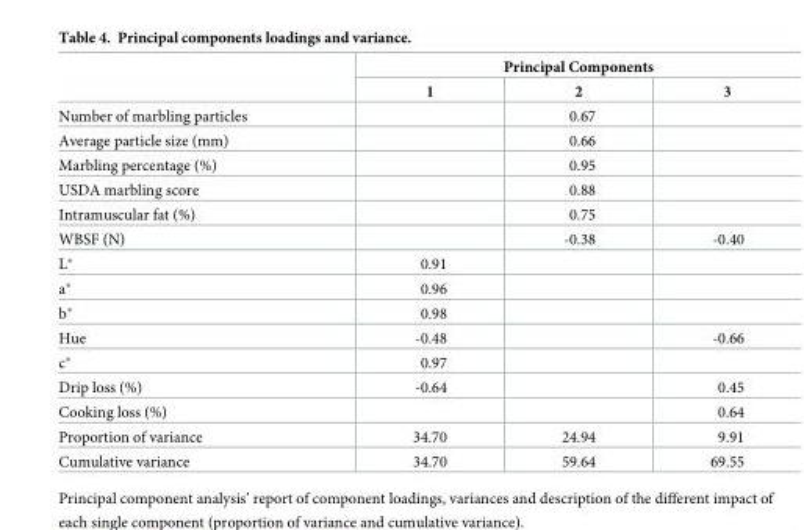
<table><thead><tr><td rowspan="2"></td><td colspan="3">Principal Components</td></tr><tr><td>1</td><td>2</td><td>3</td></tr></thead><tbody><tr><td>Number of marbling particles</td><td></td><td>0.67</td><td></td></tr><tr><td>Average particle size (mm)</td><td></td><td>0.66</td><td></td></tr><tr><td>Marbling percentage (%)</td><td></td><td>0.95</td><td></td></tr><tr><td>USDA marbling score</td><td></td><td>0.88</td><td></td></tr><tr><td>Intramuscular fat (%)</td><td></td><td>0.75</td><td></td></tr><tr><td>WBSF (N)</td><td></td><td>-0.38</td><td>-0.40</td></tr><tr><td>L*</td><td>0.91</td><td></td><td></td></tr><tr><td>a*</td><td>0.96</td><td></td><td></td></tr><tr><td>b*</td><td>0.98</td><td></td><td></td></tr><tr><td>Hue</td><td>-0.48</td><td></td><td>-0.66</td></tr><tr><td>c*</td><td>0.97</td><td></td><td></td></tr><tr><td>Drip loss (%)</td><td>-0.64</td><td></td><td>0.45</td></tr><tr><td>Cooking loss (%)</td><td></td><td></td><td>0.64</td></tr><tr><td>Proportion of variance</td><td>34.70</td><td>24.94</td><td>9.91</td></tr><tr><td>Cumulative variance</td><td>34.70</td><td>59.64</td><td>69.55</td></tr></tbody></table>